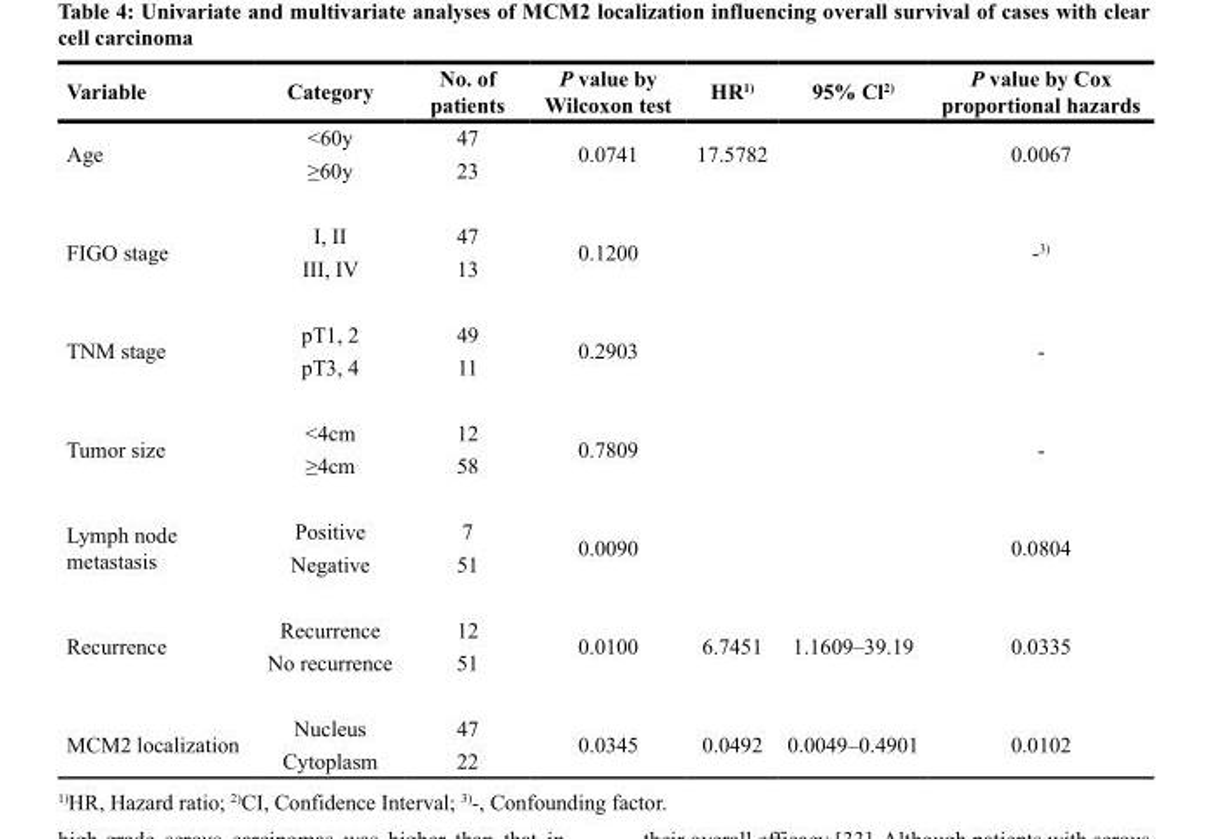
<table><thead><tr><td>Variable</td><td>Category</td><td>No. of patients</td><td>P value by Wilcoxon test</td><td>HR<sup>1)</sup></td><td>95% Cl<sup>2)</sup></td><td>P value by Cox proportional hazards</td></tr></thead><tbody><tr><td rowspan="2">Age</td><td>&lt;60y</td><td>47</td><td rowspan="2">0.0741</td><td rowspan="2">17.5782</td><td rowspan="2"></td><td rowspan="2">0.0067</td></tr><tr><td>≥60y</td><td>23</td></tr><tr><td rowspan="2">FIGO stage</td><td>I, II</td><td>47</td><td rowspan="2">0.1200</td><td rowspan="2"></td><td rowspan="2"></td><td rowspan="2">-<sup>3)</sup></td></tr><tr><td>III, IV</td><td>13</td></tr><tr><td rowspan="2">TNM stage</td><td>pT1, 2</td><td>49</td><td rowspan="2">0.2903</td><td rowspan="2"></td><td rowspan="2"></td><td rowspan="2">-</td></tr><tr><td>pT3, 4</td><td>11</td></tr><tr><td rowspan="2">Tumor size</td><td>&lt;4cm</td><td>12</td><td rowspan="2">0.7809</td><td rowspan="2"></td><td rowspan="2"></td><td rowspan="2">-</td></tr><tr><td>≥4cm</td><td>58</td></tr><tr><td rowspan="2">Lymph node metastasis</td><td>Positive</td><td>7</td><td rowspan="2">0.0090</td><td rowspan="2"></td><td rowspan="2"></td><td rowspan="2">0.0804</td></tr><tr><td>Negative</td><td>51</td></tr><tr><td rowspan="2">Recurrence</td><td>Recurrence</td><td>12</td><td rowspan="2">0.0100</td><td rowspan="2">6.7451</td><td rowspan="2">1.1609–39.19</td><td rowspan="2">0.0335</td></tr><tr><td>No recurrence</td><td>51</td></tr><tr><td rowspan="2">MCM2 localization</td><td>Nucleus</td><td>47</td><td rowspan="2">0.0345</td><td rowspan="2">0.0492</td><td rowspan="2">0.0049–0.4901</td><td rowspan="2">0.0102</td></tr><tr><td>Cytoplasm</td><td>22</td></tr></tbody></table>